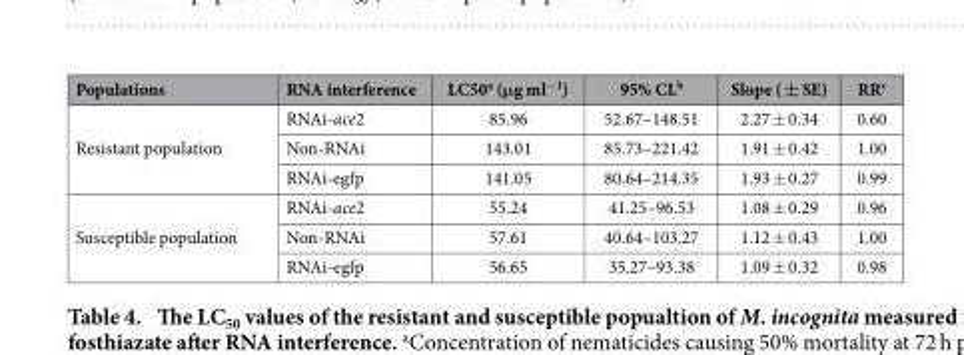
<table><thead><tr><td>Populations</td><td>RNA interference</td><td>LC50<sup>a</sup> (μg ml<sup>−1</sup>)</td><td>95% CL<sup>b</sup></td><td>Slope ( ± SE)</td><td>RR<sup>c</sup></td></tr></thead><tbody><tr><td rowspan="3">Resistant population</td><td>RNAi-ace2</td><td>85.96</td><td>52.67–148.51</td><td>2.27 ± 0.34</td><td>0.60</td></tr><tr><td>Non-RNAi</td><td>143.01</td><td>85.73–221.42</td><td>1.91 ± 0.42</td><td>1.00</td></tr><tr><td>RNAi-egfp</td><td>141.05</td><td>80.64–214.35</td><td>1.93 ± 0.27</td><td>0.99</td></tr><tr><td rowspan="3">Susceptible population</td><td>RNAi-ace2</td><td>55.24</td><td>41.25–96.53</td><td>1.08 ± 0.29</td><td>0.96</td></tr><tr><td>Non-RNAi</td><td>57.61</td><td>40.64–103.27</td><td>1.12 ± 0.43</td><td>1.00</td></tr><tr><td>RNAi-egfp</td><td>56.65</td><td>35.27–93.38</td><td>1.09 ± 0.32</td><td>0.98</td></tr></tbody></table>